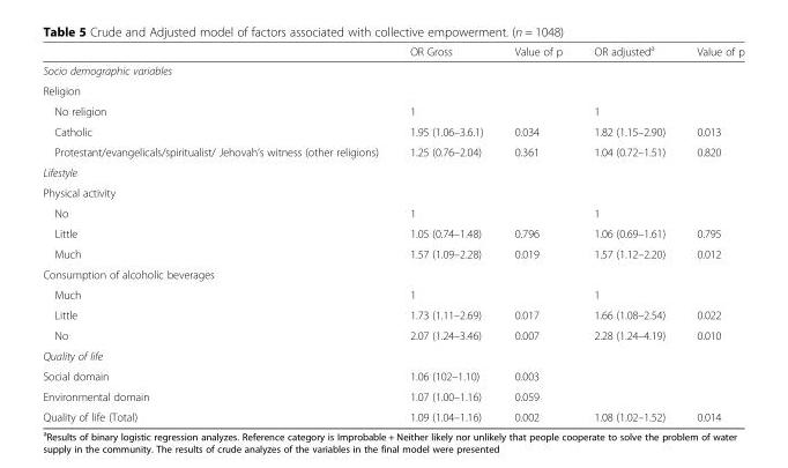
<table><thead><tr><td></td><td>OR Gross</td><td>Value of p</td><td>OR adjusted<sup>a</sup></td><td>Value of p</td></tr></thead><tbody><tr><td colspan="5">Socio demographic variables</td></tr><tr><td colspan="5">Religion</td></tr><tr><td>No religion</td><td>1</td><td></td><td>1</td><td></td></tr><tr><td>Catholic</td><td>1.95 (1.06–3.6.1)</td><td>0.034</td><td>1.82 (1.15–2.90)</td><td>0.013</td></tr><tr><td>Protestant/evangelicals/spiritualist/ Jehovah’s witness (other religions)</td><td>1.25 (0.76–2.04)</td><td>0.361</td><td>1.04 (0.72–1.51)</td><td>0.820</td></tr><tr><td colspan="5">Lifestyle</td></tr><tr><td colspan="5">Physical activity</td></tr><tr><td>No</td><td>1</td><td></td><td>1</td><td></td></tr><tr><td>Little</td><td>1.05 (0.74–1.48)</td><td>0.796</td><td>1.06 (0.69–1.61)</td><td>0.795</td></tr><tr><td>Much</td><td>1.57 (1.09–2.28)</td><td>0.019</td><td>1.57 (1.12–2.20)</td><td>0.012</td></tr><tr><td colspan="5">Consumption of alcoholic beverages</td></tr><tr><td>Much</td><td>1</td><td></td><td>1</td><td></td></tr><tr><td>Little</td><td>1.73 (1.11–2.69)</td><td>0.017</td><td>1.66 (1.08–2.54)</td><td>0.022</td></tr><tr><td>No</td><td>2.07 (1.24–3.46)</td><td>0.007</td><td>2.28 (1.24–4.19)</td><td>0.010</td></tr><tr><td colspan="5">Quality of life</td></tr><tr><td>Social domain</td><td>1.06 (102–1.10)</td><td>0.003</td><td></td><td></td></tr><tr><td>Environmental domain</td><td>1.07 (1.00–1.16)</td><td>0.059</td><td></td><td></td></tr><tr><td>Quality of life (Total)</td><td>1.09 (1.04–1.16)</td><td>0.002</td><td>1.08 (1.02–1.52)</td><td>0.014</td></tr></tbody></table>